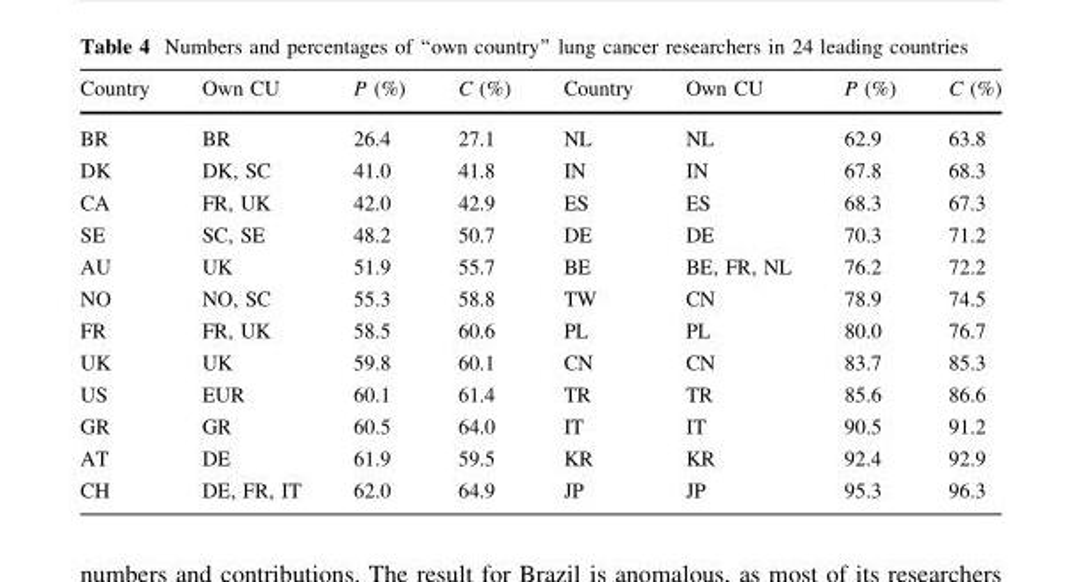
<table><thead><tr><td>Country</td><td>Own CU</td><td>P (%)</td><td>C (%)</td><td>Country</td><td>Own CU</td><td>P (%)</td><td>C (%)</td></tr></thead><tbody><tr><td>BR</td><td>BR</td><td>26.4</td><td>27.1</td><td>NL</td><td>NL</td><td>62.9</td><td>63.8</td></tr><tr><td>DK</td><td>DK, SC</td><td>41.0</td><td>41.8</td><td>IN</td><td>IN</td><td>67.8</td><td>68.3</td></tr><tr><td>CA</td><td>FR, UK</td><td>42.0</td><td>42.9</td><td>ES</td><td>ES</td><td>68.3</td><td>67.3</td></tr><tr><td>SE</td><td>SC, SE</td><td>48.2</td><td>50.7</td><td>DE</td><td>DE</td><td>70.3</td><td>71.2</td></tr><tr><td>AU</td><td>UK</td><td>51.9</td><td>55.7</td><td>BE</td><td>BE, FR, NL</td><td>76.2</td><td>72.2</td></tr><tr><td>NO</td><td>NO, SC</td><td>55.3</td><td>58.8</td><td>TW</td><td>CN</td><td>78.9</td><td>74.5</td></tr><tr><td>FR</td><td>FR, UK</td><td>58.5</td><td>60.6</td><td>PL</td><td>PL</td><td>80.0</td><td>76.7</td></tr><tr><td>UK</td><td>UK</td><td>59.8</td><td>60.1</td><td>CN</td><td>CN</td><td>83.7</td><td>85.3</td></tr><tr><td>US</td><td>EUR</td><td>60.1</td><td>61.4</td><td>TR</td><td>TR</td><td>85.6</td><td>86.6</td></tr><tr><td>GR</td><td>GR</td><td>60.5</td><td>64.0</td><td>IT</td><td>IT</td><td>90.5</td><td>91.2</td></tr><tr><td>AT</td><td>DE</td><td>61.9</td><td>59.5</td><td>KR</td><td>KR</td><td>92.4</td><td>92.9</td></tr><tr><td>CH</td><td>DE, FR, IT</td><td>62.0</td><td>64.9</td><td>JP</td><td>JP</td><td>95.3</td><td>96.3</td></tr></tbody></table>